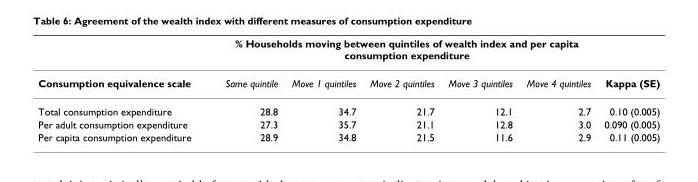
<table><thead><tr><td rowspan="2">Consumption equivalence scale</td><td colspan="5">% Households moving between quintiles of wealth index and per capita consumption expenditure</td><td rowspan="2">Kappa (SE)</td></tr><tr><td>Same quintile</td><td>Move 1 quintiles</td><td>Move 2 quintiles</td><td>Move 3 quintiles</td><td>Move 4 quintiles</td></tr></thead><tbody><tr><td>Total consumption expenditure</td><td>28.8</td><td>34.7</td><td>21.7</td><td>12.1</td><td>2.7</td><td>0.10 (0.005)</td></tr><tr><td>Per adult consumption expenditure</td><td>27.3</td><td>35.7</td><td>21.1</td><td>12.8</td><td>3.0</td><td>0.090 (0.005)</td></tr><tr><td>Per capita consumption expenditure</td><td>28.9</td><td>34.8</td><td>21.5</td><td>11.6</td><td>2.9</td><td>0.11 (0.005)</td></tr></tbody></table>